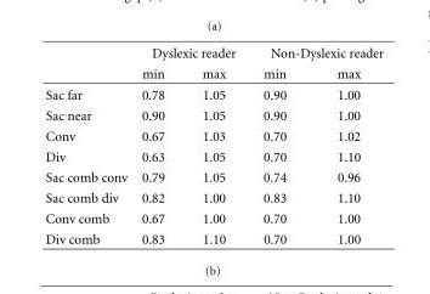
<table><thead><tr><td rowspan="2"></td><td colspan="2">Dyslexic reader</td><td colspan="2">Non-Dyslexic reader</td></tr><tr><td>min</td><td>max</td><td>min</td><td>max</td></tr></thead><tbody><tr><td>Sac far</td><td>0.78</td><td>1.05</td><td>0.90</td><td>1.00</td></tr><tr><td>Sac near</td><td>0.90</td><td>1.05</td><td>0.90</td><td>1.00</td></tr><tr><td>Conv</td><td>0.67</td><td>1.03</td><td>0.70</td><td>1.02</td></tr><tr><td>Div</td><td>0.63</td><td>1.05</td><td>0.70</td><td>1.10</td></tr><tr><td>Sac comb conv</td><td>0.79</td><td>1.05</td><td>0.74</td><td>0.96</td></tr><tr><td>Sac comb div</td><td>0.82</td><td>1.00</td><td>0.83</td><td>1.10</td></tr><tr><td>Conv comb</td><td>0.67</td><td>1.00</td><td>0.70</td><td>1.00</td></tr><tr><td>Div comb</td><td>0.83</td><td>1.10</td><td>0.70</td><td>1.00</td></tr></tbody></table>